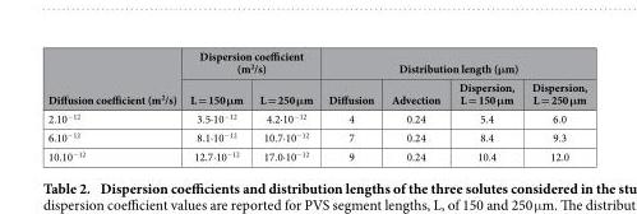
<table><thead><tr><td rowspan="2">Diffusion coefficient (m<sup>2</sup>/s)</td><td colspan="2">Dispersion coefficient (m<sup>2</sup>/s)</td><td colspan="4">Distribution length (μm)</td></tr><tr><td>L = 150 μm</td><td>L = 250 μm</td><td>Diffusion</td><td>Advection</td><td>Dispersion, L = 150 μm</td><td>Dispersion, L = 250 μm</td></tr></thead><tbody><tr><td>2.10<sup>−12</sup></td><td>3.5∙10<sup>−12</sup></td><td>4.2∙10<sup>−12</sup></td><td>4</td><td>0.24</td><td>5.4</td><td>6.0</td></tr><tr><td>6.10<sup>−12</sup></td><td>8.1∙10<sup>−12</sup></td><td>10.7∙10<sup>−12</sup></td><td>7</td><td>0.24</td><td>8.4</td><td>9.3</td></tr><tr><td>10.10<sup>−12</sup></td><td>12.7∙10<sup>−12</sup></td><td>17.0∙10<sup>−12</sup></td><td>9</td><td>0.24</td><td>10.4</td><td>12.0</td></tr></tbody></table>